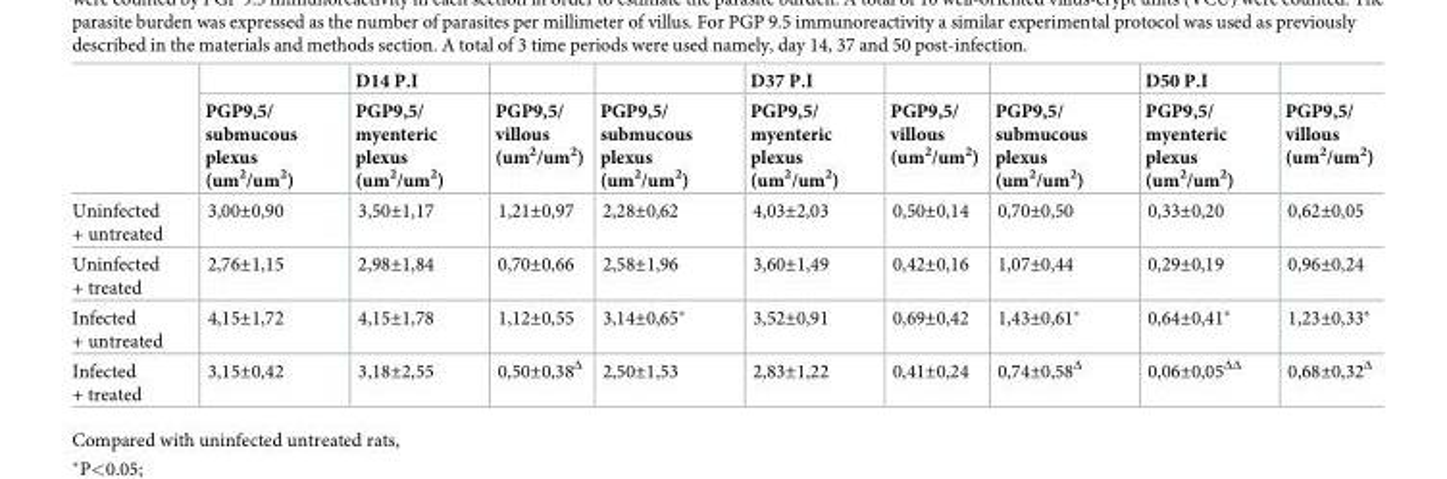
<table><thead><tr><td rowspan="2"></td><td rowspan="2">PGP9,5/ submucous plexus (um<sup>2</sup>/um<sup>2</sup>)</td><td rowspan="2">D14 P.I PGP9,5/ myenteric plexus (um<sup>2</sup>/um<sup>2</sup>)</td><td rowspan="2">PGP9,5/ villous (um<sup>2</sup>/um<sup>2</sup>)</td><td rowspan="2">PGP9,5/ submucous plexus (um<sup>2</sup>/um<sup>2</sup>)</td><td rowspan="2">D37 P.I PGP9,5/ myenteric plexus (um<sup>2</sup>/um<sup>2</sup>)</td><td rowspan="2">PGP9,5/ villous (um<sup>2</sup>/um<sup>2</sup>)</td><td rowspan="2">PGP9,5/ submucous plexus (um<sup>2</sup>/um<sup>2</sup>)</td><td rowspan="2">D50 P.I PGP9,5/ myenteric plexus (um<sup>2</sup>/um<sup>2</sup>)</td><td rowspan="2">PGP9,5/ villous (um<sup>2</sup>/um<sup>2</sup>)</td></tr><tr></tr></thead><tbody><tr><td>Uninfected + untreated</td><td>3,00±0,90</td><td>3,50±1,17</td><td>1,21±0,97</td><td>2,28±0,62</td><td>4,03±2,03</td><td>0,50±0,14</td><td>0,70±0,50</td><td>0,33±0,20</td><td>0,62±0,05</td></tr><tr><td>Uninfected + treated</td><td>2,76±1,15</td><td>2,98±1,84</td><td>0,70±0,66</td><td>2,58±1,96</td><td>3,60±1,49</td><td>0,42±0,16</td><td>1,07±0,44</td><td>0,29±0,19</td><td>0,96±0,24</td></tr><tr><td>Infected + untreated</td><td>4,15±1,72</td><td>4,15±1,78</td><td>1,12±0,55</td><td>3,14±0,65*</td><td>3,52±0,91</td><td>0,69±0,42</td><td>1,43±0,61*</td><td>0,64±0,41*</td><td>1,23±0,33*</td></tr><tr><td>Infected + treated</td><td>3,15±0,42</td><td>3,18±2,55</td><td>0,50±0,38<sup>Δ</sup></td><td>2,50±1,53</td><td>2,83±1,22</td><td>0,41±0,24</td><td>0,74±0,58<sup>Δ</sup></td><td>0,06±0,05<sup>ΔΔ</sup></td><td>0,68±0,32<sup>Δ</sup></td></tr></tbody></table>